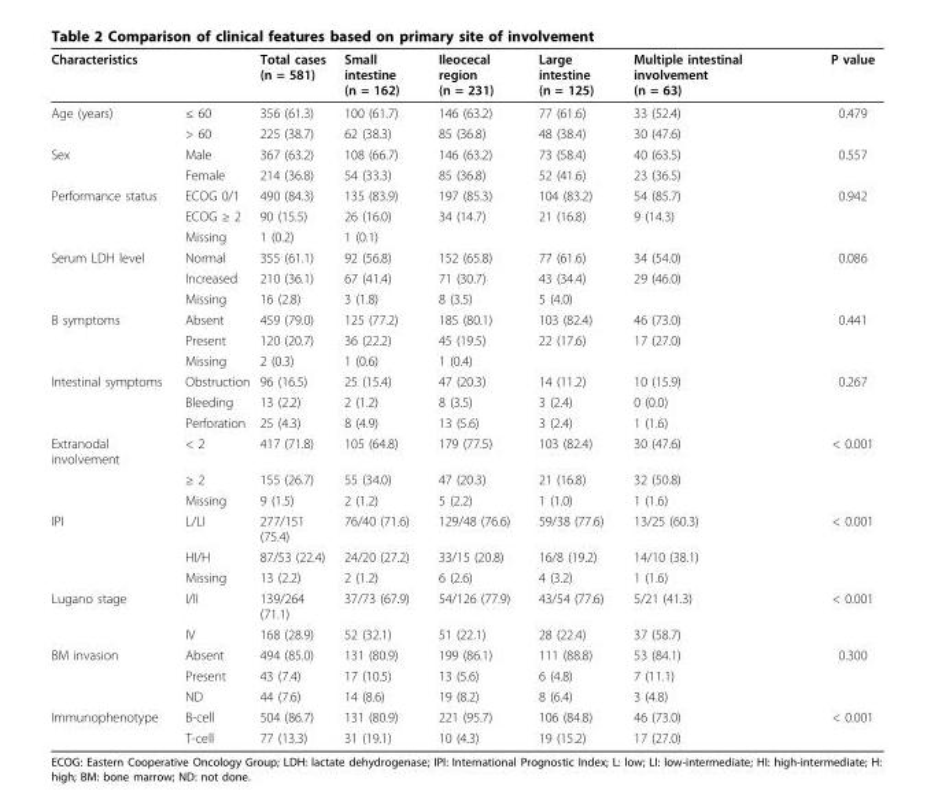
<table><thead><tr><td>Characteristics</td><td></td><td>Total cases (n = 581)</td><td>Small intestine (n = 162)</td><td>Ileocecal region (n = 231)</td><td>Large intestine (n = 125)</td><td>Multiple intestinal involvement (n = 63)</td><td>P value</td></tr></thead><tbody><tr><td rowspan="2">Age (years)</td><td>≤ 60</td><td>356 (61.3)</td><td>100 (61.7)</td><td>146 (63.2)</td><td>77 (61.6)</td><td>33 (52.4)</td><td>0.479</td></tr><tr><td>&gt; 60</td><td>225 (38.7)</td><td>62 (38.3)</td><td>85 (36.8)</td><td>48 (38.4)</td><td>30 (47.6)</td><td></td></tr><tr><td rowspan="2">Sex</td><td>Male</td><td>367 (63.2)</td><td>108 (66.7)</td><td>146 (63.2)</td><td>73 (58.4)</td><td>40 (63.5)</td><td>0.557</td></tr><tr><td>Female</td><td>214 (36.8)</td><td>54 (33.3)</td><td>85 (36.8)</td><td>52 (41.6)</td><td>23 (36.5)</td><td></td></tr><tr><td rowspan="3">Performance status</td><td>ECOG 0/1</td><td>490 (84.3)</td><td>135 (83.9)</td><td>197 (85.3)</td><td>104 (83.2)</td><td>54 (85.7)</td><td>0.942</td></tr><tr><td>ECOG ≥ 2</td><td>90 (15.5)</td><td>26 (16.0)</td><td>34 (14.7)</td><td>21 (16.8)</td><td>9 (14.3)</td><td></td></tr><tr><td>Missing</td><td>1 (0.2)</td><td>1 (0.1)</td><td></td><td></td><td></td><td></td></tr><tr><td rowspan="3">Serum LDH level</td><td>Normal</td><td>355 (61.1)</td><td>92 (56.8)</td><td>152 (65.8)</td><td>77 (61.6)</td><td>34 (54.0)</td><td>0.086</td></tr><tr><td>Increased</td><td>210 (36.1)</td><td>67 (41.4)</td><td>71 (30.7)</td><td>43 (34.4)</td><td>29 (46.0)</td><td></td></tr><tr><td>Missing</td><td>16 (2.8)</td><td>3 (1.8)</td><td>8 (3.5)</td><td>5 (4.0)</td><td></td><td></td></tr><tr><td rowspan="3">B symptoms</td><td>Absent</td><td>459 (79.0)</td><td>125 (77.2)</td><td>185 (80.1)</td><td>103 (82.4)</td><td>46 (73.0)</td><td>0.441</td></tr><tr><td>Present</td><td>120 (20.7)</td><td>36 (22.2)</td><td>45 (19.5)</td><td>22 (17.6)</td><td>17 (27.0)</td><td></td></tr><tr><td>Missing</td><td>2 (0.3)</td><td>1 (0.6)</td><td>1 (0.4)</td><td></td><td></td><td></td></tr><tr><td rowspan="3">Intestinal symptoms</td><td>Obstruction</td><td>96 (16.5)</td><td>25 (15.4)</td><td>47 (20.3)</td><td>14 (11.2)</td><td>10 (15.9)</td><td>0.267</td></tr><tr><td>Bleeding</td><td>13 (2.2)</td><td>2 (1.2)</td><td>8 (3.5)</td><td>3 (2.4)</td><td>0 (0.0)</td><td></td></tr><tr><td>Perforation</td><td>25 (4.3)</td><td>8 (4.9)</td><td>13 (5.6)</td><td>3 (2.4)</td><td>1 (1.6)</td><td></td></tr><tr><td rowspan="3">Extranodal involvement</td><td>&lt; 2</td><td>417 (71.8)</td><td>105 (64.8)</td><td>179 (77.5)</td><td>103 (82.4)</td><td>30 (47.6)</td><td>&lt; 0.001</td></tr><tr><td>≥ 2</td><td>155 (26.7)</td><td>55 (34.0)</td><td>47 (20.3)</td><td>21 (16.8)</td><td>32 (50.8)</td><td></td></tr><tr><td>Missing</td><td>9 (1.5)</td><td>2 (1.2)</td><td>5 (2.2)</td><td>1 (1.0)</td><td>1 (1.6)</td><td></td></tr><tr><td rowspan="3">IPI</td><td>L/LI</td><td>277/151 (75.4)</td><td>76/40 (71.6)</td><td>129/48 (76.6)</td><td>59/38 (77.6)</td><td>13/25 (60.3)</td><td>&lt; 0.001</td></tr><tr><td>HI/H</td><td>87/53 (22.4)</td><td>24/20 (27.2)</td><td>33/15 (20.8)</td><td>16/8 (19.2)</td><td>14/10 (38.1)</td><td></td></tr><tr><td>Missing</td><td>13 (2.2)</td><td>2 (1.2)</td><td>6 (2.6)</td><td>4 (3.2)</td><td>1 (1.6)</td><td></td></tr><tr><td rowspan="2">Lugano stage</td><td>I/II</td><td>139/264 (71.1)</td><td>37/73 (67.9)</td><td>54/126 (77.9)</td><td>43/54 (77.6)</td><td>5/21 (41.3)</td><td>&lt; 0.001</td></tr><tr><td>IV</td><td>168 (28.9)</td><td>52 (32.1)</td><td>51 (22.1)</td><td>28 (22.4)</td><td>37 (58.7)</td><td></td></tr><tr><td rowspan="3">BM invasion</td><td>Absent</td><td>494 (85.0)</td><td>131 (80.9)</td><td>199 (86.1)</td><td>111 (88.8)</td><td>53 (84.1)</td><td>0.300</td></tr><tr><td>Present</td><td>43 (7.4)</td><td>17 (10.5)</td><td>13 (5.6)</td><td>6 (4.8)</td><td>7 (11.1)</td><td></td></tr><tr><td>ND</td><td>44 (7.6)</td><td>14 (8.6)</td><td>19 (8.2)</td><td>8 (6.4)</td><td>3 (4.8)</td><td></td></tr><tr><td rowspan="2">Immunophenotype</td><td>B-cell</td><td>504 (86.7)</td><td>131 (80.9)</td><td>221 (95.7)</td><td>106 (84.8)</td><td>46 (73.0)</td><td>&lt; 0.001</td></tr><tr><td>T-cell</td><td>77 (13.3)</td><td>31 (19.1)</td><td>10 (4.3)</td><td>19 (15.2)</td><td>17 (27.0)</td><td></td></tr></tbody></table>